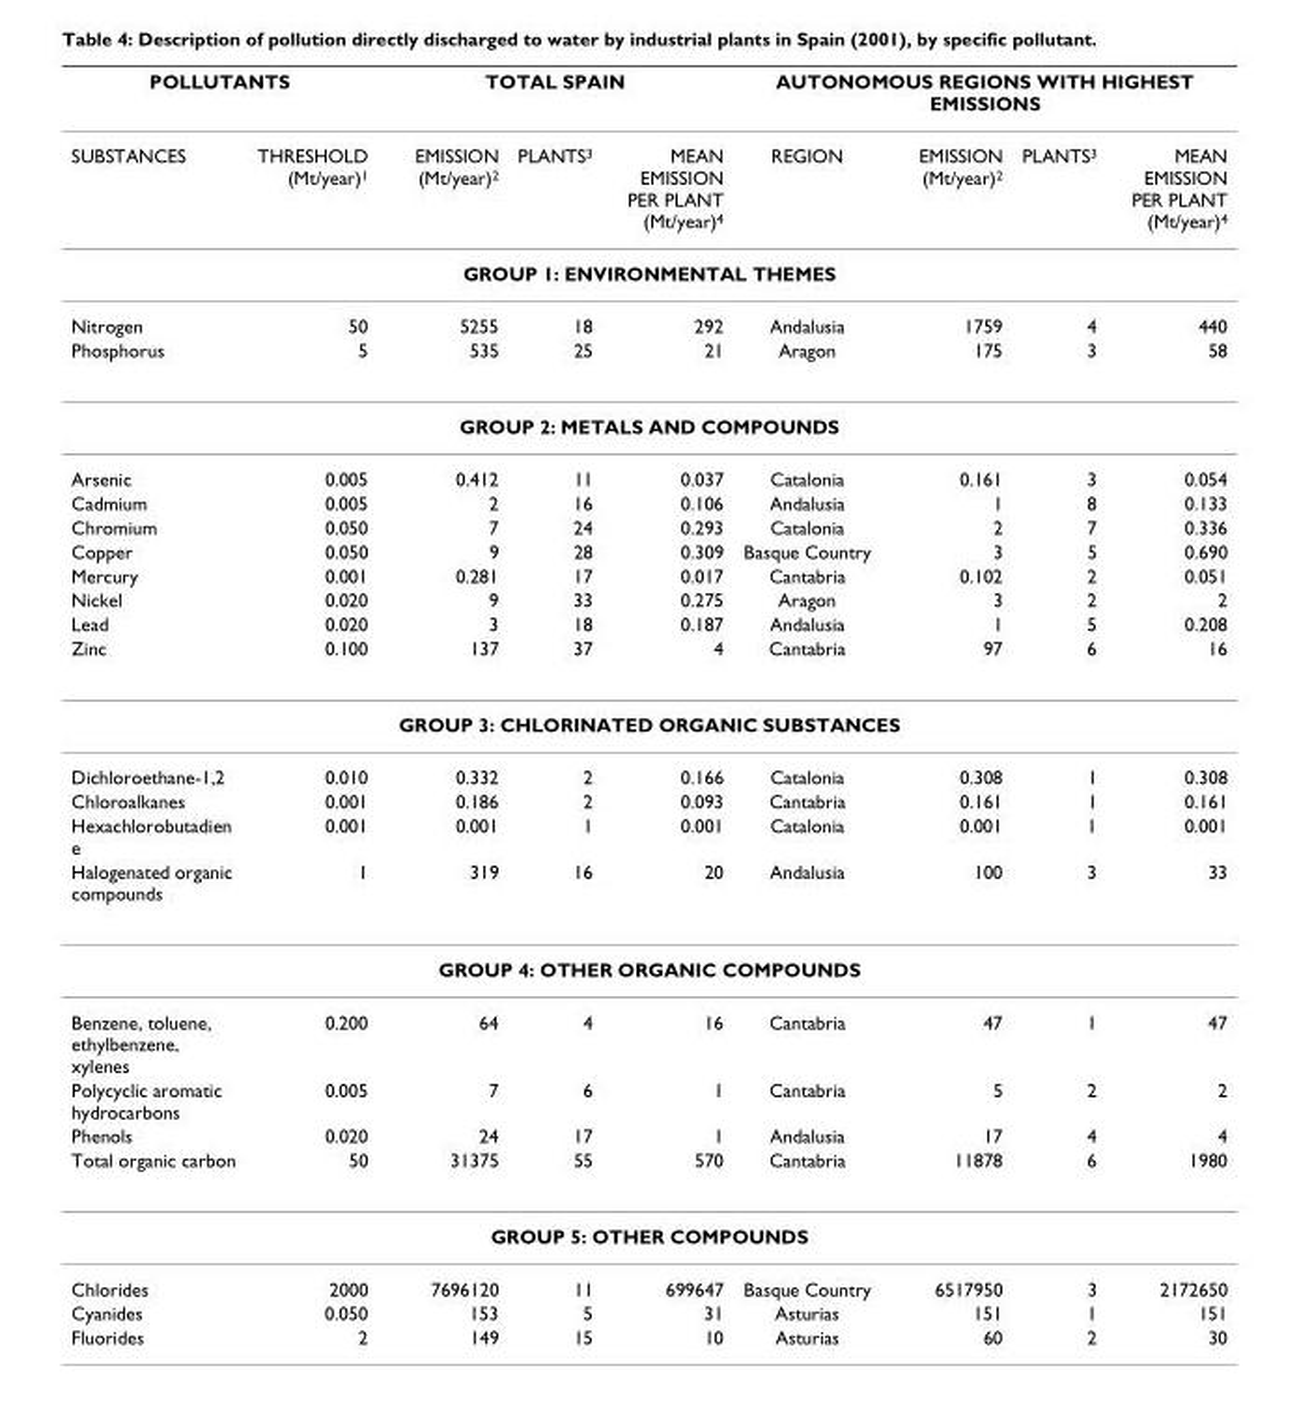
<table><thead><tr><td colspan="2">POLLUTANTS</td><td colspan="3">TOTAL SPAIN</td><td colspan="4">AUTONOMOUS REGIONS WITH HIGHEST EMISSIONS</td></tr><tr><td>SUBSTANCES</td><td>THRESHOLD (Mt/year)<sup>1</sup></td><td>EMISSION (Mt/year)<sup>2</sup></td><td>PLANTS<sup>3</sup></td><td>MEAN EMISSION PER PLANT (Mt/year)<sup>4</sup></td><td>REGION</td><td>EMISSION (Mt/year)<sup>2</sup></td><td>PLANTS<sup>3</sup></td><td>MEAN EMISSION PER PLANT (Mt/year)<sup>4</sup></td></tr></thead><tbody><tr><td colspan="9">GROUP 1: ENVIRONMENTAL THEMES</td></tr><tr><td>Nitrogen</td><td>50</td><td>5255</td><td>18</td><td>292</td><td>Andalusia</td><td>1759</td><td>4</td><td>440</td></tr><tr><td>Phosphorus</td><td>5</td><td>535</td><td>25</td><td>21</td><td>Aragon</td><td>175</td><td>3</td><td>58</td></tr><tr><td colspan="9">GROUP 2: METALS AND COMPOUNDS</td></tr><tr><td>Arsenic</td><td>0.005</td><td>0.412</td><td>11</td><td>0.037</td><td>Catalonia</td><td>0.161</td><td>3</td><td>0.054</td></tr><tr><td>Cadmium</td><td>0.005</td><td>2</td><td>16</td><td>0.106</td><td>Andalusia</td><td>1</td><td>8</td><td>0.133</td></tr><tr><td>Chromium</td><td>0.050</td><td>7</td><td>24</td><td>0.293</td><td>Catalonia</td><td>2</td><td>7</td><td>0.336</td></tr><tr><td>Copper</td><td>0.050</td><td>9</td><td>28</td><td>0.309</td><td>Basque Country</td><td>3</td><td>5</td><td>0.690</td></tr><tr><td>Mercury</td><td>0.001</td><td>0.281</td><td>17</td><td>0.017</td><td>Cantabria</td><td>0.102</td><td>2</td><td>0.051</td></tr><tr><td>Nickel</td><td>0.020</td><td>9</td><td>33</td><td>0.275</td><td>Aragon</td><td>3</td><td>2</td><td>2</td></tr><tr><td>Lead</td><td>0.020</td><td>3</td><td>18</td><td>0.187</td><td>Andalusia</td><td>1</td><td>5</td><td>0.208</td></tr><tr><td>Zinc</td><td>0.100</td><td>137</td><td>37</td><td>4</td><td>Cantabria</td><td>97</td><td>6</td><td>16</td></tr><tr><td colspan="9">GROUP 3: CHLORINATED ORGANIC SUBSTANCES</td></tr><tr><td>Dichloroethane-1,2</td><td>0.010</td><td>0.332</td><td>2</td><td>0.166</td><td>Catalonia</td><td>0.308</td><td>1</td><td>0.308</td></tr><tr><td>Chloroalkanes</td><td>0.001</td><td>0.186</td><td>2</td><td>0.093</td><td>Cantabria</td><td>0.161</td><td>1</td><td>0.161</td></tr><tr><td>Hexachlorobutadien e</td><td>0.001</td><td>0.001</td><td>1</td><td>0.001</td><td>Catalonia</td><td>0.001</td><td>1</td><td>0.001</td></tr><tr><td>Halogenated organic compounds</td><td>1</td><td>319</td><td>16</td><td>20</td><td>Andalusia</td><td>100</td><td>3</td><td>33</td></tr><tr><td colspan="9">GROUP 4: OTHER ORGANIC COMPOUNDS</td></tr><tr><td>Benzene, toluene, ethylbenzene, xylenes</td><td>0.200</td><td>64</td><td>4</td><td>16</td><td>Cantabria</td><td>47</td><td>1</td><td>47</td></tr><tr><td>Polycyclic aromatic hydrocarbons</td><td>0.005</td><td>7</td><td>6</td><td>1</td><td>Cantabria</td><td>5</td><td>2</td><td>2</td></tr><tr><td>Phenols</td><td>0.020</td><td>24</td><td>17</td><td>1</td><td>Andalusia</td><td>17</td><td>4</td><td>4</td></tr><tr><td>Total organic carbon</td><td>50</td><td>31375</td><td>55</td><td>570</td><td>Cantabria</td><td>11878</td><td>6</td><td>1980</td></tr><tr><td colspan="9">GROUP 5: OTHER COMPOUNDS</td></tr><tr><td>Chlorides</td><td>2000</td><td>7696120</td><td>11</td><td>699647</td><td>Basque Country</td><td>6517950</td><td>3</td><td>2172650</td></tr><tr><td>Cyanides</td><td>0.050</td><td>153</td><td>5</td><td>31</td><td>Asturias</td><td>151</td><td>1</td><td>151</td></tr><tr><td>Fluorides</td><td>2</td><td>149</td><td>15</td><td>10</td><td>Asturias</td><td>60</td><td>2</td><td>30</td></tr></tbody></table>